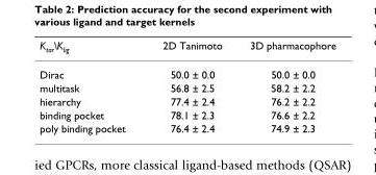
<table><thead><tr><td>K<sub>tar</sub>\K<sub>lig</sub></td><td>2D Tanimoto</td><td>3D pharmacophore</td></tr></thead><tbody><tr><td>Dirac</td><td>50.0 ± 0.0</td><td>50.0 ± 0.0</td></tr><tr><td>multitask</td><td>56.8 ± 2.5</td><td>58.2 ± 2.2</td></tr><tr><td>hierarchy</td><td>77.4 ± 2.4</td><td>76.2 ± 2.2</td></tr><tr><td>binding pocket</td><td>78.1 ± 2.3</td><td>76.6 ± 2.2</td></tr><tr><td>poly binding pocket</td><td>76.4 ± 2.4</td><td>74.9 ± 2.3</td></tr></tbody></table>